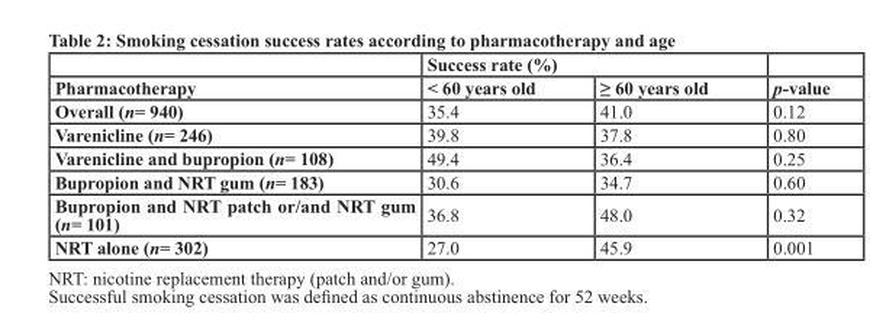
<table><thead><tr><td rowspan="2">Pharmacotherapy</td><td colspan="2">Success rate (%)</td><td rowspan="2">p-value</td></tr><tr><td>&lt; 60 years old</td><td>≥ 60 years old</td></tr></thead><tbody><tr><td>Overall (n= 940)</td><td>35.4</td><td>41.0</td><td>0.12</td></tr><tr><td>Varenicline (n= 246)</td><td>39.8</td><td>37.8</td><td>0.80</td></tr><tr><td>Varenicline and bupropion (n= 108)</td><td>49.4</td><td>36.4</td><td>0.25</td></tr><tr><td>Bupropion and NRT gum (n= 183)</td><td>30.6</td><td>34.7</td><td>0.60</td></tr><tr><td>Bupropion and NRT patch or/and NRT gum (n= 101)</td><td>36.8</td><td>48.0</td><td>0.32</td></tr><tr><td>NRT alone (n= 302)</td><td>27.0</td><td>45.9</td><td>0.001</td></tr></tbody></table>